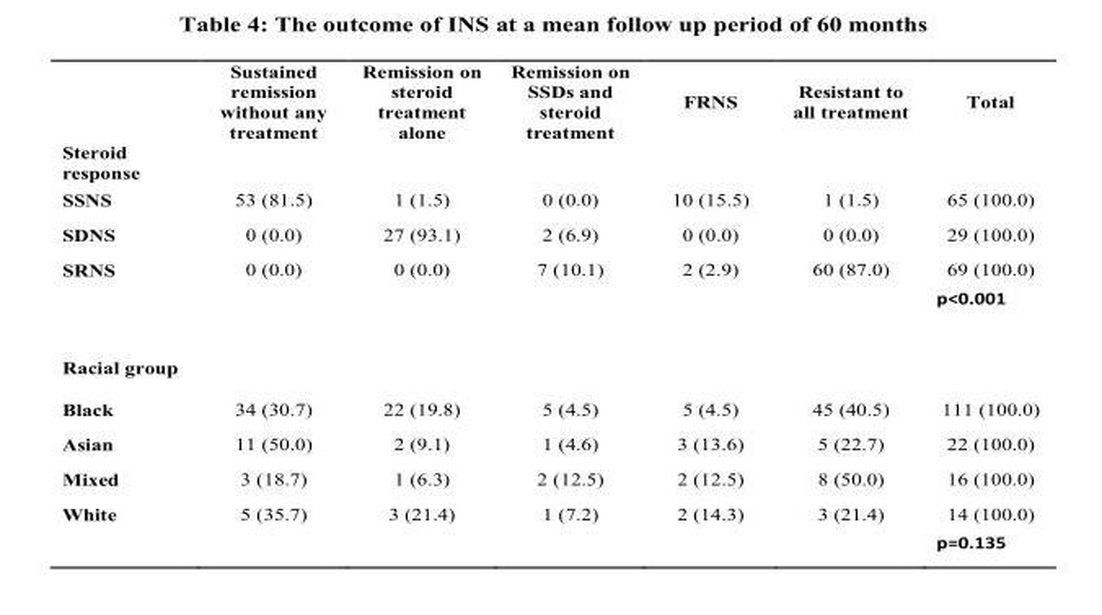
<table><thead><tr><td></td><td>Sustained remission without any treatment</td><td>Remission on steroid treatment alone</td><td>Remission on SSDs and steroid treatment</td><td>FRNS</td><td>Resistant to all treatment</td><td>Total</td></tr></thead><tbody><tr><td colspan="7">Steroid response</td></tr><tr><td>SSNS</td><td>53 (81.5)</td><td>1 (1.5)</td><td>0 (0.0)</td><td>10 (15.5)</td><td>1 (1.5)</td><td>65 (100.0)</td></tr><tr><td>SDNS</td><td>0 (0.0)</td><td>27 (93.1)</td><td>2 (6.9)</td><td>0 (0.0)</td><td>0 (0.0)</td><td>29 (100.0)</td></tr><tr><td rowspan="2">SRNS</td><td>0 (0.0)</td><td>0 (0.0)</td><td>7 (10.1)</td><td>2 (2.9)</td><td>60 (87.0)</td><td>69 (100.0)</td></tr><tr><td></td><td></td><td></td><td></td><td></td><td>p&lt;0.001</td></tr><tr><td colspan="7">Racial group</td></tr><tr><td>Black</td><td>34 (30.7)</td><td>22 (19.8)</td><td>5 (4.5)</td><td>5 (4.5)</td><td>45 (40.5)</td><td>111 (100.0)</td></tr><tr><td>Asian</td><td>11 (50.0)</td><td>2 (9.1)</td><td>1 (4.6)</td><td>3 (13.6)</td><td>5 (22.7)</td><td>22 (100.0)</td></tr><tr><td>Mixed</td><td>3 (18.7)</td><td>1 (6.3)</td><td>2 (12.5)</td><td>2 (12.5)</td><td>8 (50.0)</td><td>16 (100.0)</td></tr><tr><td rowspan="2">White</td><td>5 (35.7)</td><td>3 (21.4)</td><td>1 (7.2)</td><td>2 (14.3)</td><td>3 (21.4)</td><td>14 (100.0)</td></tr><tr><td></td><td></td><td></td><td></td><td></td><td>p=0.135</td></tr></tbody></table>